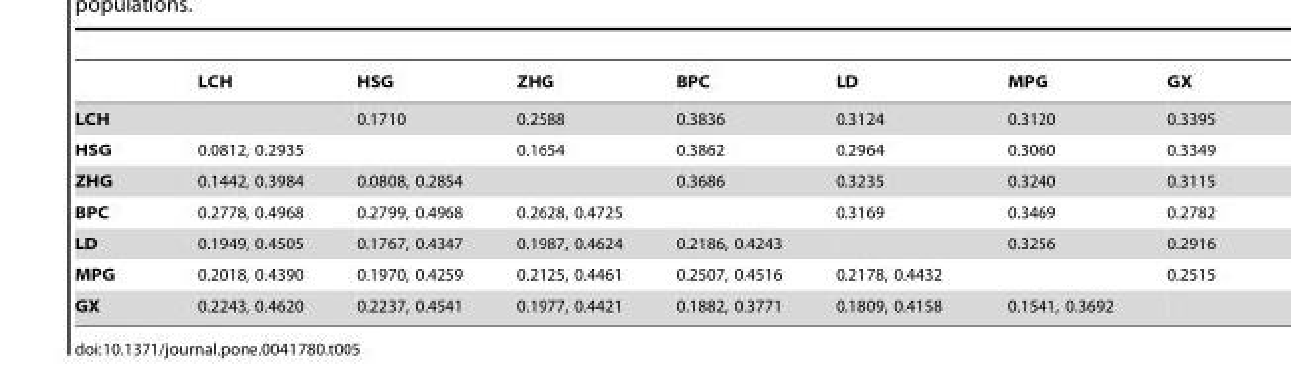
<table><thead><tr><td></td><td>LCH</td><td>HSG</td><td>ZHG</td><td>BPC</td><td>LD</td><td>MPG</td><td>GX</td></tr></thead><tbody><tr><td>LCH</td><td></td><td>0.1710</td><td>0.2588</td><td>0.3836</td><td>0.3124</td><td>0.3120</td><td>0.3395</td></tr><tr><td>HSG</td><td>0.0812, 0.2935</td><td></td><td>0.1654</td><td>0.3862</td><td>0.2964</td><td>0.3060</td><td>0.3349</td></tr><tr><td>ZHG</td><td>0.1442, 0.3984</td><td>0.0808, 0.2854</td><td></td><td>0.3686</td><td>0.3235</td><td>0.3240</td><td>0.3115</td></tr><tr><td>BPC</td><td>0.2778, 0.4968</td><td>0.2799, 0.4968</td><td>0.2628, 0.4725</td><td></td><td>0.3169</td><td>0.3469</td><td>0.2782</td></tr><tr><td>LD</td><td>0.1949, 0.4505</td><td>0.1767, 0.4347</td><td>0.1987, 0.4624</td><td>0.2186, 0.4243</td><td></td><td>0.3256</td><td>0.2916</td></tr><tr><td>MPG</td><td>0.2018, 0.4390</td><td>0.1970, 0.4259</td><td>0.2125, 0.4461</td><td>0.2507, 0.4516</td><td>0.2178, 0.4432</td><td></td><td>0.2515</td></tr><tr><td>GX</td><td>0.2243, 0.4620</td><td>0.2237, 0.4541</td><td>0.1977, 0.4421</td><td>0.1882, 0.3771</td><td>0.1809, 0.4158</td><td>0.1541, 0.3692</td><td></td></tr></tbody></table>